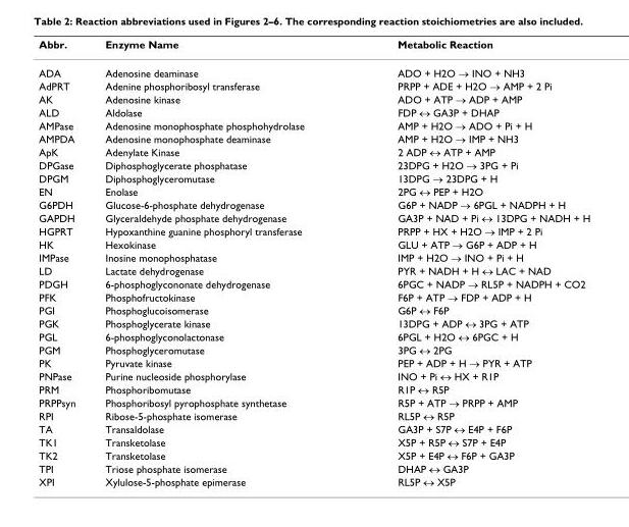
<table><thead><tr><td>Abbr.</td><td>Enzyme Name</td><td>Metabolic Reaction</td></tr></thead><tbody><tr><td>ADA</td><td>Adenosine deaminase</td><td>ADO + H2O → INO + NH3</td></tr><tr><td>AdPRT</td><td>Adenine phosphoribosyl transferase</td><td>PRPP + ADE + H2O → AMP + 2 Pi</td></tr><tr><td>AK</td><td>Adenosine kinase</td><td>ADO + ATP → ADP + AMP</td></tr><tr><td>ALD</td><td>Aldolase</td><td>FDP ↔ GA3P + DHAP</td></tr><tr><td>AMPase</td><td>Adenosine monophosphate phosphohydrolase</td><td>AMP + H2O → ADO + Pi + H</td></tr><tr><td>AMPDA</td><td>Adenosine monophosphate deaminase</td><td>AMP + H2O → IMP + NH3</td></tr><tr><td>ApK</td><td>Adenylate Kinase</td><td>2 ADP ↔ ATP + AMP</td></tr><tr><td>DPGase</td><td>Diphosphoglycerate phosphatase</td><td>23DPG + H2O → 3PG + Pi</td></tr><tr><td>DPGM</td><td>Diphosphoglyceromutase</td><td>13DPG → 23DPG + H</td></tr><tr><td>EN</td><td>Enolase</td><td>2PG ↔ PEP + H2O</td></tr><tr><td>G6PDH</td><td>Glucose-6-phosphate dehydrogenase</td><td>G6P + NADP → 6PGL + NADPH + H</td></tr><tr><td>GAPDH</td><td>Glyceraldehyde phosphate dehydrogenase</td><td>GA3P + NAD + Pi ↔ 13DPG + NADH + H</td></tr><tr><td>HGPRT</td><td>Hypoxanthine guanine phosphoryl transferase</td><td>PRPP + HX + H2O → IMP + 2 Pi</td></tr><tr><td>HK</td><td>Hexokinase</td><td>GLU + ATP → G6P + ADP + H</td></tr><tr><td>IMPase</td><td>Inosine monophosphatase</td><td>IMP + H2O → INO + Pi + H</td></tr><tr><td>LD</td><td>Lactate dehydrogenase</td><td>PYR + NADH + H ↔ LAC + NAD</td></tr><tr><td>PDGH</td><td>6-phosphoglycononate dehydrogenase</td><td>6PGC + NADP → RL5P + NADPH + CO2</td></tr><tr><td>PFK</td><td>Phosphofructokinase</td><td>F6P + ATP → FDP + ADP + H</td></tr><tr><td>PGI</td><td>Phosphoglucoisomerase</td><td>G6P ↔ F6P</td></tr><tr><td>PGK</td><td>Phosphoglycerate kinase</td><td>13DPG + ADP ↔ 3PG + ATP</td></tr><tr><td>PGL</td><td>6-phosphoglyconolactonase</td><td>6PGL + H2O ↔ 6PGC + H</td></tr><tr><td>PGM</td><td>Phosphoglyceromutase</td><td>3PG ↔ 2PG</td></tr><tr><td>PK</td><td>Pyruvate kinase</td><td>PEP + ADP + H → PYR + ATP</td></tr><tr><td>PNPase</td><td>Purine nucleoside phosphorylase</td><td>INO + Pi ↔ HX + R1P</td></tr><tr><td>PRM</td><td>Phosphoribomutase</td><td>R1P ↔ R5P</td></tr><tr><td>PRPPsyn</td><td>Phosphoribosyl pyrophosphate synthetase</td><td>R5P + ATP → PRPP + AMP</td></tr><tr><td>RPI</td><td>Ribose-5-phosphate isomerase</td><td>RL5P ↔ R5P</td></tr><tr><td>TA</td><td>Transaldolase</td><td>GA3P + S7P ↔ E4P + F6P</td></tr><tr><td>TK1</td><td>Transketolase</td><td>X5P + R5P ↔ S7P + E4P</td></tr><tr><td>TK2</td><td>Transketolase</td><td>X5P + E4P ↔ F6P + GA3P</td></tr><tr><td>TPI</td><td>Triose phosphate isomerase</td><td>DHAP ↔ GA3P</td></tr><tr><td>XPI</td><td>Xylulose-5-phosphate epimerase</td><td>RL5P ↔ X5P</td></tr></tbody></table>